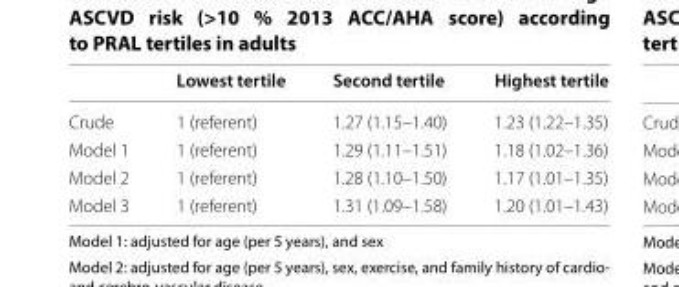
<table><thead><tr><td></td><td>Lowest tertile</td><td>Second tertile</td><td>Highest tertile</td></tr></thead><tbody><tr><td>Crude</td><td>1 (referent)</td><td>1.27 (1.15–1.40)</td><td>1.23 (1.22–1.35)</td></tr><tr><td>Model 1</td><td>1 (referent)</td><td>1.29 (1.11–1.51)</td><td>1.18 (1.02–1.36)</td></tr><tr><td>Model 2</td><td>1 (referent)</td><td>1.28 (1.10–1.50)</td><td>1.17 (1.01–1.35)</td></tr><tr><td>Model 3</td><td>1 (referent)</td><td>1.31 (1.09–1.58)</td><td>1.20 (1.01–1.43)</td></tr></tbody></table>